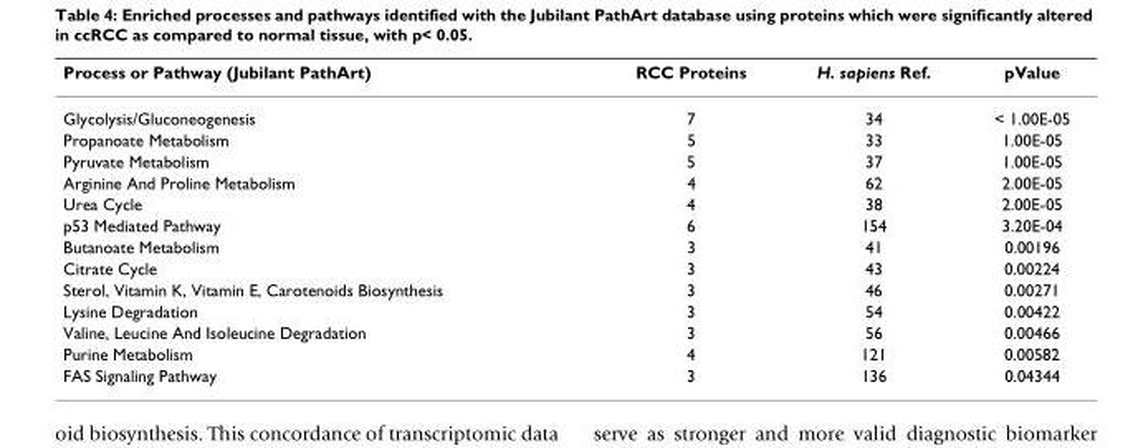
<table><thead><tr><td>Process or Pathway (Jubilant PathArt)</td><td>RCC Proteins</td><td>H. sapiens Ref.</td><td>pValue</td></tr></thead><tbody><tr><td>Glycolysis/Gluconeogenesis</td><td>7</td><td>34</td><td>&lt; 1.00E-05</td></tr><tr><td>Propanoate Metabolism</td><td>5</td><td>33</td><td>1.00E-05</td></tr><tr><td>Pyruvate Metabolism</td><td>5</td><td>37</td><td>1.00E-05</td></tr><tr><td>Arginine And Proline Metabolism</td><td>4</td><td>62</td><td>2.00E-05</td></tr><tr><td>Urea Cycle</td><td>4</td><td>38</td><td>2.00E-05</td></tr><tr><td>p53 Mediated Pathway</td><td>6</td><td>154</td><td>3.20E-04</td></tr><tr><td>Butanoate Metabolism</td><td>3</td><td>41</td><td>0.00196</td></tr><tr><td>Citrate Cycle</td><td>3</td><td>43</td><td>0.00224</td></tr><tr><td>Sterol, Vitamin K, Vitamin E, Carotenoids Biosynthesis</td><td>3</td><td>46</td><td>0.00271</td></tr><tr><td>Lysine Degradation</td><td>3</td><td>54</td><td>0.00422</td></tr><tr><td>Valine, Leucine And Isoleucine Degradation</td><td>3</td><td>56</td><td>0.00466</td></tr><tr><td>Purine Metabolism</td><td>4</td><td>121</td><td>0.00582</td></tr><tr><td>FAS Signaling Pathway</td><td>3</td><td>136</td><td>0.04344</td></tr></tbody></table>